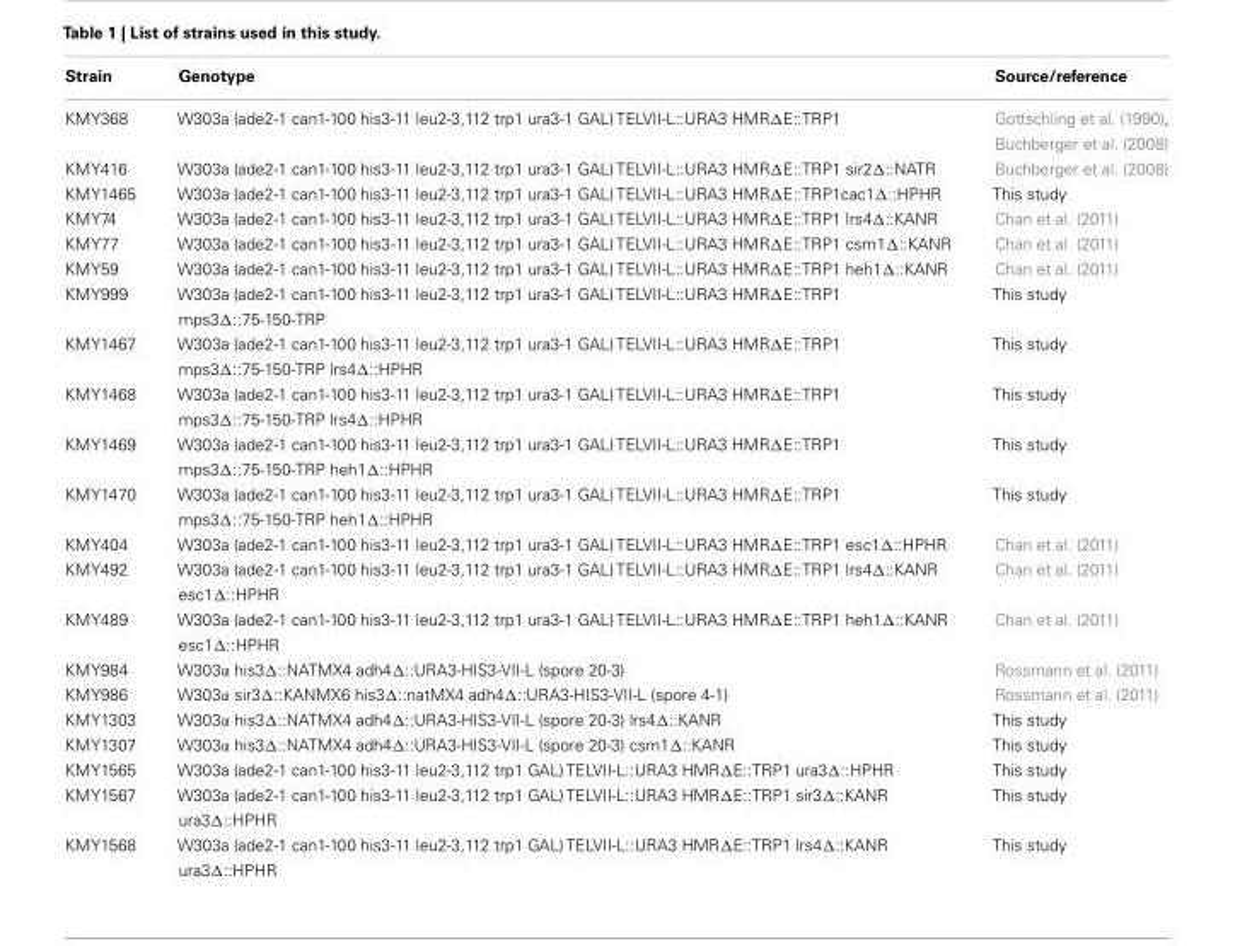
<table><thead><tr><td>Strain</td><td>Genotype</td><td>Source/reference</td></tr></thead><tbody><tr><td>KMY368</td><td>W303a (ade2-1 can1-100 his3-11 leu2-3,112 trp1 ura3-1 GAL) TELVII-L::URA3 HMR∆E::TRP1</td><td>Gottschling et al. (1990), Buchberger et al. (2008)</td></tr><tr><td>KMY416</td><td>W303a (ade2-1 can1-100 his3-11 leu2-3,112 trp1 ura3-1 GAL) TELVII-L::URA3 HMR∆E::TRP1 sir2∆::NATR</td><td>Buchberger et al. (2008)</td></tr><tr><td>KMY1465</td><td>W303a (ade2-1 can1-100 his3-11 leu2-3,112 trp1 ura3-1 GAL) TELVII-L::URA3 HMR∆E::TRP1cac1∆::HPHR</td><td>This study</td></tr><tr><td>KMY74</td><td>W303a (ade2-1 can1-100 his3-11 leu2-3,112 trp1 ura3-1 GAL) TELVII-L::URA3 HMR∆E::TRP1 lrs4∆::KANR</td><td>Chan et al. (2011)</td></tr><tr><td>KMY77</td><td>W303a (ade2-1 can1-100 his3-11 leu2-3,112 trp1 ura3-1 GAL) TELVII-L::URA3 HMR∆E::TRP1 csm1∆::KANR</td><td>Chan et al. (2011)</td></tr><tr><td>KMY59</td><td>W303a (ade2-1 can1-100 his3-11 leu2-3,112 trp1 ura3-1 GAL) TELVII-L::URA3 HMR∆E::TRP1 heh1∆::KANR</td><td>Chan et al. (2011)</td></tr><tr><td>KMY999</td><td>W303a (ade2-1 can1-100 his3-11 leu2-3,112 trp1 ura3-1 GAL) TELVII-L::URA3 HMR∆E::TRP1 mps3∆::75-150-TRP</td><td>This study</td></tr><tr><td>KMY1467</td><td>W303a (ade2-1 can1-100 his3-11 leu2-3,112 trp1 ura3-1 GAL) TELVII-L::URA3 HMR∆E::TRP1 mps3∆::75-150-TRP lrs4∆::HPHR</td><td>This study</td></tr><tr><td>KMY1468</td><td>W303a (ade2-1 can1-100 his3-11 leu2-3,112 trp1 ura3-1 GAL) TELVII-L::URA3 HMR∆E::TRP1 mps3∆::75-150-TRP lrs4∆::HPHR</td><td>This study</td></tr><tr><td>KMY1469</td><td>W303a (ade2-1 can1-100 his3-11 leu2-3,112 trp1 ura3-1 GAL) TELVII-L::URA3 HMR∆E::TRP1 mps3∆::75-150-TRP heh1∆::HPHR</td><td>This study</td></tr><tr><td>KMY1470</td><td>W303a (ade2-1 can1-100 his3-11 leu2-3,112 trp1 ura3-1 GAL) TELVII-L::URA3 HMR∆E::TRP1 mps3∆::75-150-TRP heh1∆::HPHR</td><td>This study</td></tr><tr><td>KMY404</td><td>W303a (ade2-1 can1-100 his3-11 leu2-3,112 trp1 ura3-1 GAL) TELVII-L::URA3 HMR∆E::TRP1 esc1∆::HPHR</td><td>Chan et al. (2011)</td></tr><tr><td>KMY492</td><td>W303a (ade2-1 can1-100 his3-11 leu2-3,112 trp1 ura3-1 GAL) TELVII-L::URA3 HMR∆E::TRP1 lrs4∆::KANR esc1∆::HPHR</td><td>Chan et al. (2011)</td></tr><tr><td>KMY489</td><td>W303a (ade2-1 can1-100 his3-11 leu2-3,112 trp1 ura3-1 GAL) TELVII-L::URA3 HMR∆E::TRP1 heh1∆::KANR esc1∆::HPHR</td><td>Chan et al. (2011)</td></tr><tr><td>KMY984</td><td>W303α his3∆::NATMX4 adh4∆::URA3-HIS3-VII-L (spore 20-3)</td><td>Rossmann et al. (2011)</td></tr><tr><td>KMY986</td><td>W303α sir3∆::KANMX6 his3∆::natMX4 adh4∆::URA3-HIS3-VII-L (spore 4-1)</td><td>Rossmann et al. (2011)</td></tr><tr><td>KMY1303</td><td>W303α his3∆::NATMX4 adh4∆::URA3-HIS3-VII-L (spore 20-3) lrs4∆::KANR</td><td>This study</td></tr><tr><td>KMY1307</td><td>W303α his3∆::NATMX4 adh4∆::URA3-HIS3-VII-L (spore 20-3) csm1∆::KANR</td><td>This study</td></tr><tr><td>KMY1565</td><td>W303a (ade2-1 can1-100 his3-11 leu2-3,112 trp1 GAL) TELVII-L::URA3 HMR∆E::TRP1 ura3∆::HPHR</td><td>This study</td></tr><tr><td>KMY1567</td><td>W303a (ade2-1 can1-100 his3-11 leu2-3,112 trp1 GAL) TELVII-L::URA3 HMR∆E::TRP1 sir3∆::KANR ura3∆::HPHR</td><td>This study</td></tr><tr><td>KMY1568</td><td>W303a (ade2-1 can1-100 his3-11 leu2-3,112 trp1 GAL) TELVII-L::URA3 HMR∆E::TRP1 lrs4∆::KANR ura3∆::HPHR</td><td>This study</td></tr></tbody></table>